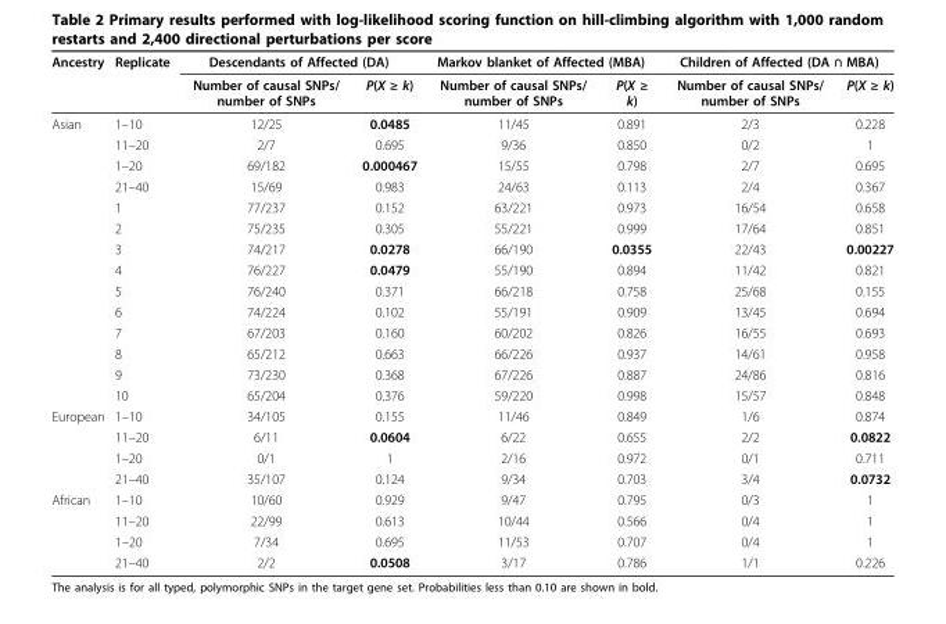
<table><thead><tr><td rowspan="2">Ancestry</td><td rowspan="2">Replicate</td><td colspan="2">Descendants of Affected (DA)</td><td colspan="2">Markov blanket of Affected (MBA)</td><td colspan="2">Children of Affected (DA ∩ MBA)</td></tr><tr><td>Number of causal SNPs/ number of SNPs</td><td>P(X ≥ k)</td><td>Number of causal SNPs/ number of SNPs</td><td>P(X ≥ k)</td><td>Number of causal SNPs/ number of SNPs</td><td>P(X ≥ k)</td></tr></thead><tbody><tr><td rowspan="14">Asian</td><td>1–10</td><td>12/25</td><td>0.0485</td><td>11/45</td><td>0.891</td><td>2/3</td><td>0.228</td></tr><tr><td>11–20</td><td>2/7</td><td>0.695</td><td>9/36</td><td>0.850</td><td>0/2</td><td>1</td></tr><tr><td>1–20</td><td>69/182</td><td>0.000467</td><td>15/55</td><td>0.798</td><td>2/7</td><td>0.695</td></tr><tr><td>21–40</td><td>15/69</td><td>0.983</td><td>24/63</td><td>0.113</td><td>2/4</td><td>0.367</td></tr><tr><td>1</td><td>77/237</td><td>0.152</td><td>63/221</td><td>0.973</td><td>16/54</td><td>0.658</td></tr><tr><td>2</td><td>75/235</td><td>0.305</td><td>55/221</td><td>0.999</td><td>17/64</td><td>0.851</td></tr><tr><td>3</td><td>74/217</td><td>0.0278</td><td>66/190</td><td>0.0355</td><td>22/43</td><td>0.00227</td></tr><tr><td>4</td><td>76/227</td><td>0.0479</td><td>55/190</td><td>0.894</td><td>11/42</td><td>0.821</td></tr><tr><td>5</td><td>76/240</td><td>0.371</td><td>66/218</td><td>0.758</td><td>25/68</td><td>0.155</td></tr><tr><td>6</td><td>74/224</td><td>0.102</td><td>55/191</td><td>0.909</td><td>13/45</td><td>0.694</td></tr><tr><td>7</td><td>67/203</td><td>0.160</td><td>60/202</td><td>0.826</td><td>16/55</td><td>0.693</td></tr><tr><td>8</td><td>65/212</td><td>0.663</td><td>66/226</td><td>0.937</td><td>14/61</td><td>0.958</td></tr><tr><td>9</td><td>73/230</td><td>0.368</td><td>67/226</td><td>0.887</td><td>24/86</td><td>0.816</td></tr><tr><td>10</td><td>65/204</td><td>0.376</td><td>59/220</td><td>0.998</td><td>15/57</td><td>0.848</td></tr><tr><td rowspan="4">European</td><td>1–10</td><td>34/105</td><td>0.155</td><td>11/46</td><td>0.849</td><td>1/6</td><td>0.874</td></tr><tr><td>11–20</td><td>6/11</td><td>0.0604</td><td>6/22</td><td>0.655</td><td>2/2</td><td>0.0822</td></tr><tr><td>1–20</td><td>0/1</td><td>1</td><td>2/16</td><td>0.972</td><td>0/1</td><td>0.711</td></tr><tr><td>21–40</td><td>35/107</td><td>0.124</td><td>9/34</td><td>0.703</td><td>3/4</td><td>0.0732</td></tr><tr><td rowspan="4">African</td><td>1–10</td><td>10/60</td><td>0.929</td><td>9/47</td><td>0.795</td><td>0/3</td><td>1</td></tr><tr><td>11–20</td><td>22/99</td><td>0.613</td><td>10/44</td><td>0.566</td><td>0/4</td><td>1</td></tr><tr><td>1–20</td><td>7/34</td><td>0.695</td><td>11/53</td><td>0.707</td><td>0/4</td><td>1</td></tr><tr><td>21–40</td><td>2/2</td><td>0.0508</td><td>3/17</td><td>0.786</td><td>1/1</td><td>0.226</td></tr></tbody></table>